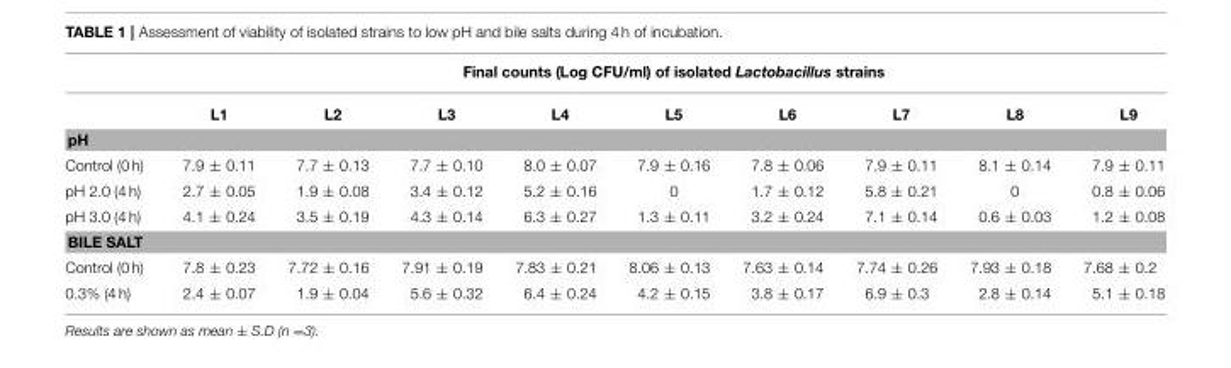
<table><thead><tr><td rowspan="2"></td><td colspan="9">Final counts (Log CFU/ml) of isolated Lactobacillus strains</td></tr><tr><td>L1</td><td>L2</td><td>L3</td><td>L4</td><td>L5</td><td>L6</td><td>L7</td><td>L8</td><td>L9</td></tr></thead><tbody><tr><td colspan="10">pH</td></tr><tr><td>Control (0 h)</td><td>7.9 ± 0.11</td><td>7.7 ± 0.13</td><td>7.7 ± 0.10</td><td>8.0 ± 0.07</td><td>7.9 ± 0.16</td><td>7.8 ± 0.06</td><td>7.9 ± 0.11</td><td>8.1 ± 0.14</td><td>7.9 ± 0.11</td></tr><tr><td>pH 2.0 (4 h)</td><td>2.7 ± 0.05</td><td>1.9 ± 0.08</td><td>3.4 ± 0.12</td><td>5.2 ± 0.16</td><td>0</td><td>1.7 ± 0.12</td><td>5.8 ± 0.21</td><td>0</td><td>0.8 ± 0.06</td></tr><tr><td>pH 3.0 (4 h)</td><td>4.1 ± 0.24</td><td>3.5 ± 0.19</td><td>4.3 ± 0.14</td><td>6.3 ± 0.27</td><td>1.3 ± 0.11</td><td>3.2 ± 0.24</td><td>7.1 ± 0.14</td><td>0.6 ± 0.03</td><td>1.2 ± 0.08</td></tr><tr><td colspan="10">BILE SALT</td></tr><tr><td>Control (0 h)</td><td>7.8 ± 0.23</td><td>7.72 ± 0.16</td><td>7.91 ± 0.19</td><td>7.83 ± 0.21</td><td>8.06 ± 0.13</td><td>7.63 ± 0.14</td><td>7.74 ± 0.26</td><td>7.93 ± 0.18</td><td>7.68 ± 0.2</td></tr><tr><td>0.3% (4 h)</td><td>2.4 ± 0.07</td><td>1.9 ± 0.04</td><td>5.6 ± 0.32</td><td>6.4 ± 0.24</td><td>4.2 ± 0.15</td><td>3.8 ± 0.17</td><td>6.9 ± 0.3</td><td>2.8 ± 0.14</td><td>5.1 ± 0.18</td></tr></tbody></table>